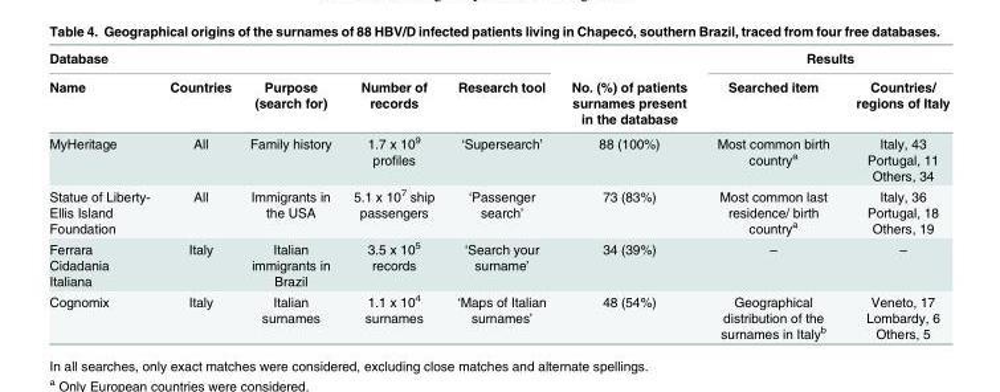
<table><thead><tr><td colspan="5">Database</td><td rowspan="2">No. (%) of patients surnames present in the database</td><td colspan="2">Results</td></tr><tr><td>Name</td><td>Countries</td><td>Purpose (search for)</td><td>Number of records</td><td>Research tool</td><td>Searched item</td><td>Countries/ regions of Italy</td></tr></thead><tbody><tr><td>MyHeritage</td><td>All</td><td>Family history</td><td>1.7 x 10<sup>9</sup> profiles</td><td>‘Supersearch’</td><td>88 (100%)</td><td>Most common birth country<sup>a</sup></td><td>Italy, 43 Portugal, 11 Others, 34</td></tr><tr><td>Statue of Liberty- Ellis Island Foundation</td><td>All</td><td>Immigrants in the USA</td><td>5.1 x 10<sup>7</sup> ship passengers</td><td>‘Passenger search’</td><td>73 (83%)</td><td>Most common last residence/ birth country<sup>a</sup></td><td>Italy, 36 Portugal, 18 Others, 19</td></tr><tr><td>Ferrara Cidadania Italiana</td><td>Italy</td><td>Italian immigrants in Brazil</td><td>3.5 x 10<sup>5</sup> records</td><td>‘Search your surname’</td><td>34 (39%)</td><td>–</td><td>–</td></tr><tr><td>Cognomix</td><td>Italy</td><td>Italian surnames</td><td>1.1 x 10<sup>4</sup> surnames</td><td>‘Maps of Italian surnames’</td><td>48 (54%)</td><td>Geographical distribution of the surnames in Italy<sup>b</sup></td><td>Veneto, 17 Lombardy, 6 Others, 5</td></tr></tbody></table>